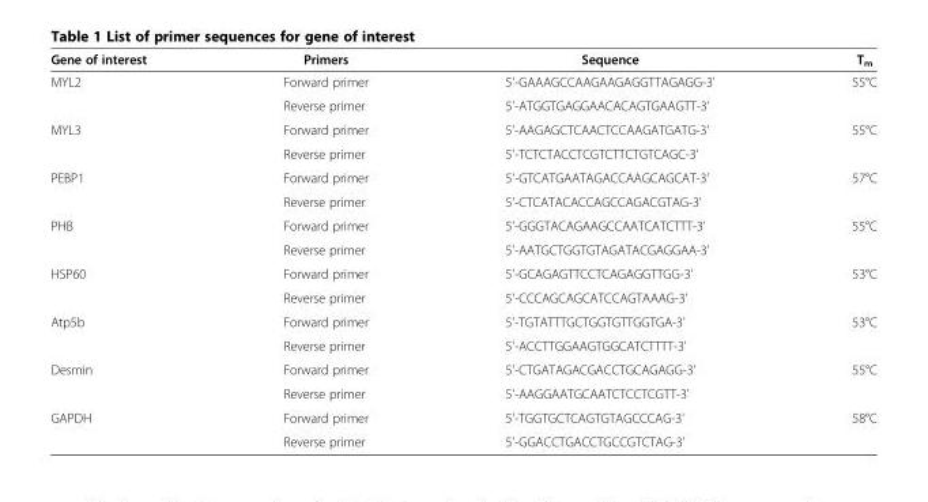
<table><thead><tr><td>Gene of interest</td><td>Primers</td><td>Sequence</td><td>T<sub>m</sub></td></tr></thead><tbody><tr><td rowspan="2">MYL2</td><td>Forward primer</td><td>5&#x27;-GAAAGCCAAGAAGAGGTTAGAGG-3&#x27;</td><td rowspan="2">55°C</td></tr><tr><td>Reverse primer</td><td>5&#x27;-ATGGTGAGGAACACAGTGAAGTT-3&#x27;</td></tr><tr><td rowspan="2">MYL3</td><td>Forward primer</td><td>5&#x27;-AAGAGCTCAACTCCAAGATGATG-3&#x27;</td><td rowspan="2">55°C</td></tr><tr><td>Reverse primer</td><td>5&#x27;-TCTCTACCTCGTCTTCTGTCAGC-3&#x27;</td></tr><tr><td rowspan="2">PEBP1</td><td>Forward primer</td><td>5&#x27;-GTCATGAATAGACCAAGCAGCAT-3&#x27;</td><td rowspan="2">57°C</td></tr><tr><td>Reverse primer</td><td>5&#x27;-CTCATACACCAGCCAGACGTAG-3&#x27;</td></tr><tr><td rowspan="2">PHB</td><td>Forward primer</td><td>5&#x27;-GGGTACAGAAGCCAATCATCTTT-3&#x27;</td><td rowspan="2">55°C</td></tr><tr><td>Reverse primer</td><td>5&#x27;-AATGCTGGTGTAGATACGAGGAA-3&#x27;</td></tr><tr><td rowspan="2">HSP60</td><td>Forward primer</td><td>5&#x27;-GCAGAGTTCCTCAGAGGTTGG-3&#x27;</td><td rowspan="2">53°C</td></tr><tr><td>Reverse primer</td><td>5&#x27;-CCCAGCAGCATCCAGTAAAG-3&#x27;</td></tr><tr><td rowspan="2">Atp5b</td><td>Forward primer</td><td>5&#x27;-TGTATTTGCTGGTGTTGGTGA-3&#x27;</td><td rowspan="2">53°C</td></tr><tr><td>Reverse primer</td><td>5&#x27;-ACCTTGGAAGTGGCATCTTTT-3&#x27;</td></tr><tr><td rowspan="2">Desmin</td><td>Forward primer</td><td>5&#x27;-CTGATAGACGACCTGCAGAGG-3&#x27;</td><td rowspan="2">55°C</td></tr><tr><td>Reverse primer</td><td>5&#x27;-AAGGAATGCAATCTCCTCGTT-3&#x27;</td></tr><tr><td rowspan="2">GAPDH</td><td>Forward primer</td><td>5&#x27;-TGGTGCTCAGTGTAGCCCAG-3&#x27;</td><td>58°C</td></tr><tr><td>Reverse primer</td><td>5&#x27;-GGACCTGACCTGCCGTCTAG-3&#x27;</td><td></td></tr></tbody></table>